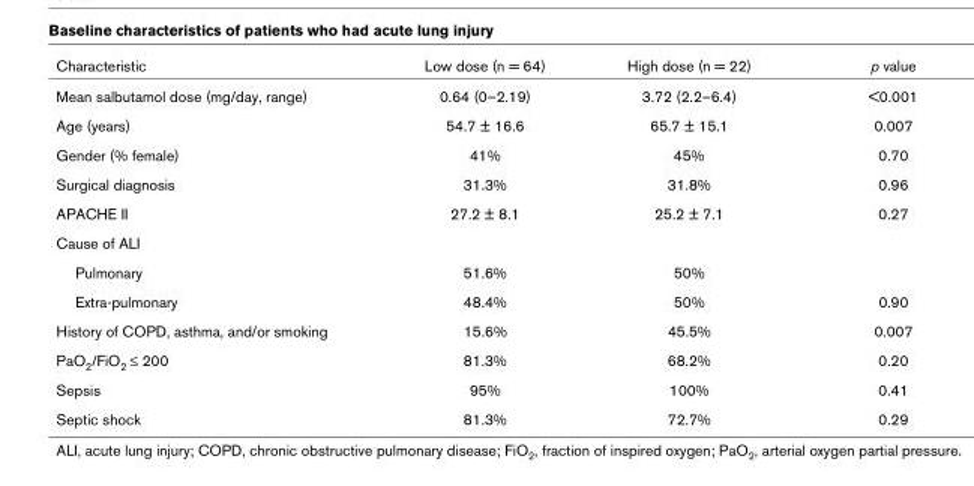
<table><thead><tr><td>Characteristic</td><td>Low dose (n = 64)</td><td>High dose (n = 22)</td><td>p value</td></tr></thead><tbody><tr><td>Mean salbutamol dose (mg/day, range)</td><td>0.64 (0–2.19)</td><td>3.72 (2.2–6.4)</td><td>&lt;0.001</td></tr><tr><td>Age (years)</td><td>54.7 ± 16.6</td><td>65.7 ± 15.1</td><td>0.007</td></tr><tr><td>Gender (% female)</td><td>41%</td><td>45%</td><td>0.70</td></tr><tr><td>Surgical diagnosis</td><td>31.3%</td><td>31.8%</td><td>0.96</td></tr><tr><td>APACHE II</td><td>27.2 ± 8.1</td><td>25.2 ± 7.1</td><td>0.27</td></tr><tr><td colspan="4">Cause of ALI</td></tr><tr><td>Pulmonary</td><td>51.6%</td><td>50%</td><td></td></tr><tr><td>Extra-pulmonary</td><td>48.4%</td><td>50%</td><td>0.90</td></tr><tr><td>History of COPD, asthma, and/or smoking</td><td>15.6%</td><td>45.5%</td><td>0.007</td></tr><tr><td>PaO2/FiO2 ≤ 200</td><td>81.3%</td><td>68.2%</td><td>0.20</td></tr><tr><td>Sepsis</td><td>95%</td><td>100%</td><td>0.41</td></tr><tr><td>Septic shock</td><td>81.3%</td><td>72.7%</td><td>0.29</td></tr></tbody></table>